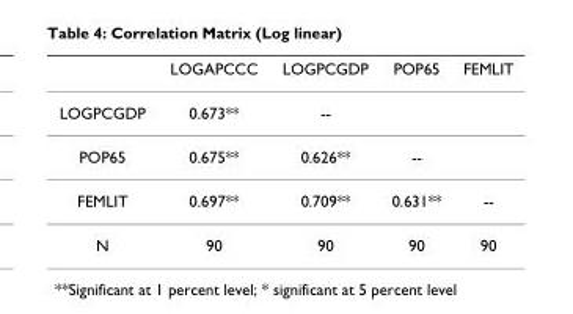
<table><thead><tr><td></td><td>LOGAPCCC</td><td>LOGPCGDP</td><td>POP65</td><td>FEMLIT</td></tr></thead><tbody><tr><td>LOGPCGDP</td><td>0.673**</td><td>--</td><td></td><td></td></tr><tr><td>POP65</td><td>0.675**</td><td>0.626**</td><td>--</td><td></td></tr><tr><td>FEMLIT</td><td>0.697**</td><td>0.709**</td><td>0.631**</td><td>--</td></tr><tr><td>N</td><td>90</td><td>90</td><td>90</td><td>90</td></tr></tbody></table>